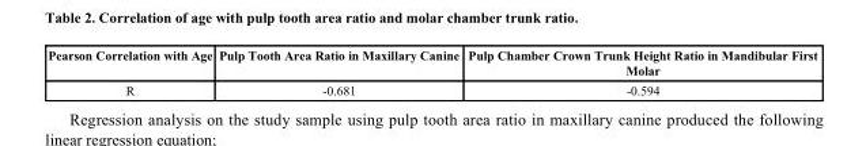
<table><tbody><tr><td>Pearson Correlation with Age</td><td>Pulp Tooth Area Ratio in Maxillary Canine</td><td>Pulp Chamber Crown Trunk Height Ratio in Mandibular First Molar</td></tr><tr><td>R</td><td>-0.681</td><td>-0.594</td></tr></tbody></table>